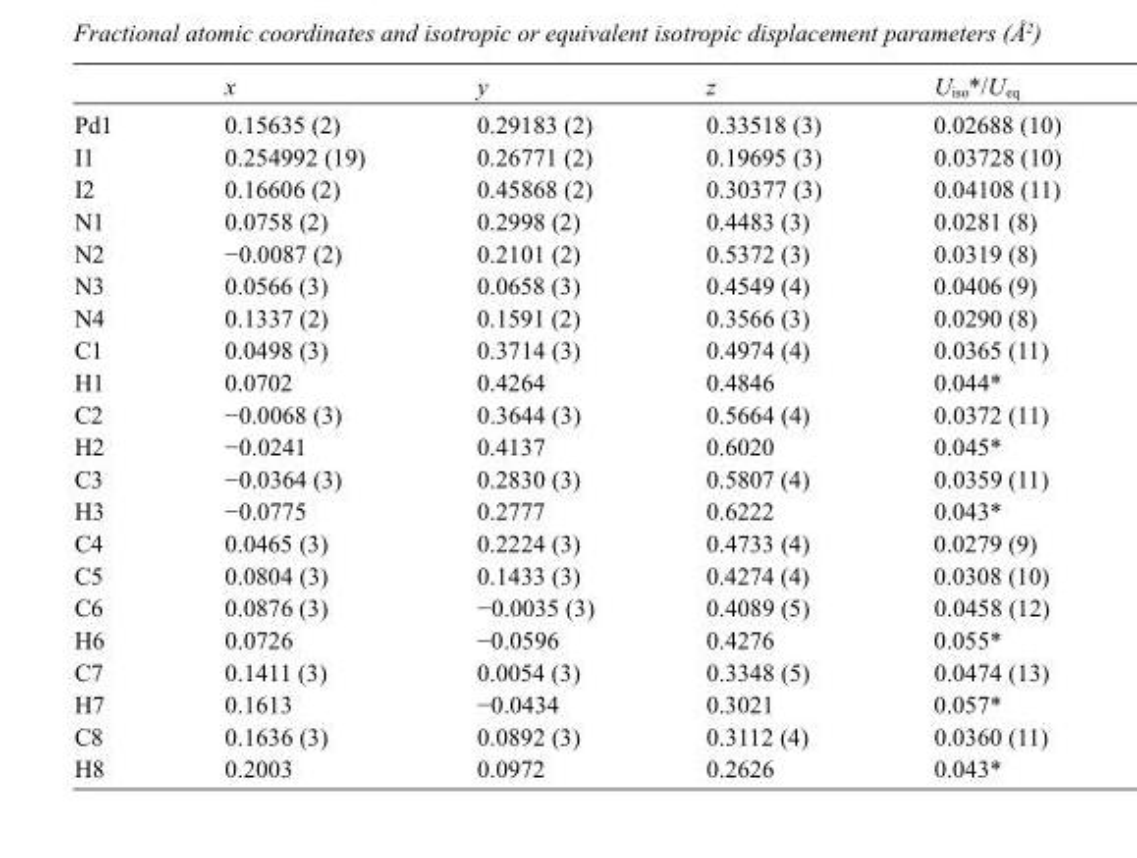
<table><thead><tr><td></td><td>x</td><td>y</td><td>z</td><td>U<sub>iso</sub>*/U<sub>eq</sub></td></tr></thead><tbody><tr><td>Pd1</td><td>0.15635 (2)</td><td>0.29183 (2)</td><td>0.33518 (3)</td><td>0.02688 (10)</td></tr><tr><td>I1</td><td>0.254992 (19)</td><td>0.26771 (2)</td><td>0.19695 (3)</td><td>0.03728 (10)</td></tr><tr><td>I2</td><td>0.16606 (2)</td><td>0.45868 (2)</td><td>0.30377 (3)</td><td>0.04108 (11)</td></tr><tr><td>N1</td><td>0.0758 (2)</td><td>0.2998 (2)</td><td>0.4483 (3)</td><td>0.0281 (8)</td></tr><tr><td>N2</td><td>−0.0087 (2)</td><td>0.2101 (2)</td><td>0.5372 (3)</td><td>0.0319 (8)</td></tr><tr><td>N3</td><td>0.0566 (3)</td><td>0.0658 (3)</td><td>0.4549 (4)</td><td>0.0406 (9)</td></tr><tr><td>N4</td><td>0.1337 (2)</td><td>0.1591 (2)</td><td>0.3566 (3)</td><td>0.0290 (8)</td></tr><tr><td>C1</td><td>0.0498 (3)</td><td>0.3714 (3)</td><td>0.4974 (4)</td><td>0.0365 (11)</td></tr><tr><td>H1</td><td>0.0702</td><td>0.4264</td><td>0.4846</td><td>0.044*</td></tr><tr><td>C2</td><td>−0.0068 (3)</td><td>0.3644 (3)</td><td>0.5664 (4)</td><td>0.0372 (11)</td></tr><tr><td>H2</td><td>−0.0241</td><td>0.4137</td><td>0.6020</td><td>0.045*</td></tr><tr><td>C3</td><td>−0.0364 (3)</td><td>0.2830 (3)</td><td>0.5807 (4)</td><td>0.0359 (11)</td></tr><tr><td>H3</td><td>−0.0775</td><td>0.2777</td><td>0.6222</td><td>0.043*</td></tr><tr><td>C4</td><td>0.0465 (3)</td><td>0.2224 (3)</td><td>0.4733 (4)</td><td>0.0279 (9)</td></tr><tr><td>C5</td><td>0.0804 (3)</td><td>0.1433 (3)</td><td>0.4274 (4)</td><td>0.0308 (10)</td></tr><tr><td>C6</td><td>0.0876 (3)</td><td>−0.0035 (3)</td><td>0.4089 (5)</td><td>0.0458 (12)</td></tr><tr><td>H6</td><td>0.0726</td><td>−0.0596</td><td>0.4276</td><td>0.055*</td></tr><tr><td>C7</td><td>0.1411 (3)</td><td>0.0054 (3)</td><td>0.3348 (5)</td><td>0.0474 (13)</td></tr><tr><td>H7</td><td>0.1613</td><td>−0.0434</td><td>0.3021</td><td>0.057*</td></tr><tr><td>C8</td><td>0.1636 (3)</td><td>0.0892 (3)</td><td>0.3112 (4)</td><td>0.0360 (11)</td></tr><tr><td>H8</td><td>0.2003</td><td>0.0972</td><td>0.2626</td><td>0.043*</td></tr></tbody></table>